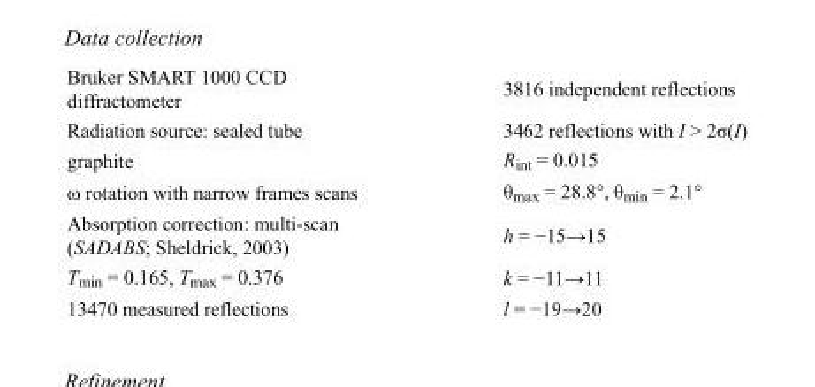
<table><tbody><tr><td>Bruker SMART 1000 CCD diffractometer</td><td>3816 independent reflections</td></tr><tr><td>Radiation source: sealed tube</td><td>3462 reflections with I &gt; 2σ(I)</td></tr><tr><td>graphite</td><td>R<sub>int</sub> = 0.015</td></tr><tr><td>ω rotation with narrow frames scans</td><td>θ<sub>max</sub> = 28.8°, θ<sub>min</sub> = 2.1°</td></tr><tr><td>Absorption correction: multi-scan (SADABS; Sheldrick, 2003)</td><td>h = −15→15</td></tr><tr><td>T<sub>min</sub> = 0.165, T<sub>max</sub> = 0.376</td><td>k = −11→11</td></tr><tr><td>13470 measured reflections</td><td>l = −19→20</td></tr></tbody></table>